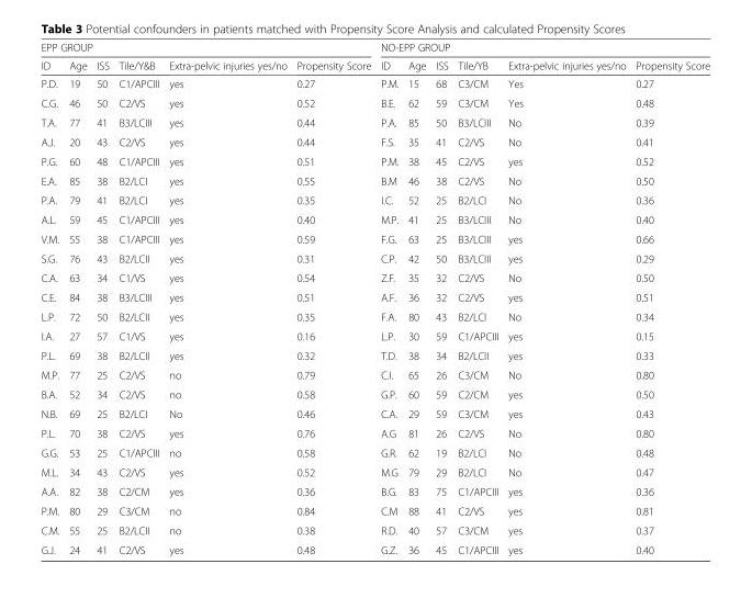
<table><thead><tr><td colspan="6">EPP GROUP</td><td colspan="6">NO-EPP GROUP</td></tr><tr><td>ID</td><td>Age</td><td>ISS</td><td>Tile/Y&amp;B</td><td>Extra-pelvic injuries yes/no</td><td>Propensity Score</td><td>ID</td><td>Age</td><td>ISS</td><td>Tile/YB</td><td>Extra-pelvic injuries yes/no</td><td>Propensity Score</td></tr></thead><tbody><tr><td>P.D.</td><td>19</td><td>50</td><td>C1/APCIII</td><td>yes</td><td>0.27</td><td>P.M.</td><td>15</td><td>68</td><td>C3/CM</td><td>Yes</td><td>0.27</td></tr><tr><td>C.G.</td><td>46</td><td>50</td><td>C2/VS</td><td>yes</td><td>0.52</td><td>B.E.</td><td>62</td><td>59</td><td>C3/CM</td><td>Yes</td><td>0.48</td></tr><tr><td>T.A.</td><td>77</td><td>41</td><td>B3/LCIII</td><td>yes</td><td>0.44</td><td>P.A.</td><td>85</td><td>50</td><td>B3/LCIII</td><td>No</td><td>0.39</td></tr><tr><td>A.J.</td><td>20</td><td>43</td><td>C2/VS</td><td>yes</td><td>0.44</td><td>F.S.</td><td>35</td><td>41</td><td>C2/VS</td><td>No</td><td>0.41</td></tr><tr><td>P.G.</td><td>60</td><td>48</td><td>C1/APCIII</td><td>yes</td><td>0.51</td><td>P.M.</td><td>38</td><td>45</td><td>C2/VS</td><td>yes</td><td>0.52</td></tr><tr><td>E.A.</td><td>85</td><td>38</td><td>B2/LCI</td><td>yes</td><td>0.55</td><td>B.M</td><td>46</td><td>38</td><td>C2/VS</td><td>No</td><td>0.50</td></tr><tr><td>P.A.</td><td>79</td><td>41</td><td>B2/LCI</td><td>yes</td><td>0.35</td><td>I.C.</td><td>52</td><td>25</td><td>B2/LCI</td><td>No</td><td>0.36</td></tr><tr><td>A.L.</td><td>59</td><td>45</td><td>C1/APCIII</td><td>yes</td><td>0.40</td><td>M.P.</td><td>41</td><td>25</td><td>B3/LCIII</td><td>No</td><td>0.40</td></tr><tr><td>V.M.</td><td>55</td><td>38</td><td>C1/APCIII</td><td>yes</td><td>0.59</td><td>F.G.</td><td>63</td><td>25</td><td>B3/LCIII</td><td>yes</td><td>0.66</td></tr><tr><td>S.G.</td><td>76</td><td>43</td><td>B2/LCII</td><td>yes</td><td>0.31</td><td>C.P.</td><td>42</td><td>50</td><td>B3/LCIII</td><td>yes</td><td>0.29</td></tr><tr><td>C.A.</td><td>63</td><td>34</td><td>C1/VS</td><td>yes</td><td>0.54</td><td>Z.F.</td><td>35</td><td>32</td><td>C2/VS</td><td>No</td><td>0.50</td></tr><tr><td>C.E.</td><td>84</td><td>38</td><td>B3/LCIII</td><td>yes</td><td>0.51</td><td>A.F.</td><td>36</td><td>32</td><td>C2/VS</td><td>yes</td><td>0.51</td></tr><tr><td>L.P.</td><td>72</td><td>50</td><td>B2/LCII</td><td>yes</td><td>0.35</td><td>F.A.</td><td>80</td><td>43</td><td>B2/LCI</td><td>No</td><td>0.34</td></tr><tr><td>I.A.</td><td>27</td><td>57</td><td>C1/VS</td><td>yes</td><td>0.16</td><td>L.P.</td><td>30</td><td>59</td><td>C1/APCIII</td><td>yes</td><td>0.15</td></tr><tr><td>P.L.</td><td>69</td><td>38</td><td>B2/LCII</td><td>yes</td><td>0.32</td><td>T.D.</td><td>38</td><td>34</td><td>B2/LCII</td><td>yes</td><td>0.33</td></tr><tr><td>M.P.</td><td>77</td><td>25</td><td>C2/VS</td><td>no</td><td>0.79</td><td>C.I.</td><td>65</td><td>26</td><td>C3/CM</td><td>No</td><td>0.80</td></tr><tr><td>B.A.</td><td>52</td><td>34</td><td>C2/VS</td><td>no</td><td>0.58</td><td>G.P.</td><td>60</td><td>59</td><td>C2/CM</td><td>yes</td><td>0.50</td></tr><tr><td>N.B.</td><td>69</td><td>25</td><td>B2/LCI</td><td>No</td><td>0.46</td><td>C.A.</td><td>29</td><td>59</td><td>C3/CM</td><td>yes</td><td>0.43</td></tr><tr><td>P.L.</td><td>70</td><td>38</td><td>C2/VS</td><td>yes</td><td>0.76</td><td>A.G</td><td>81</td><td>26</td><td>C2/VS</td><td>No</td><td>0.80</td></tr><tr><td>G.G.</td><td>53</td><td>25</td><td>C1/APCIII</td><td>no</td><td>0.58</td><td>G.R.</td><td>62</td><td>19</td><td>B2/LCI</td><td>No</td><td>0.48</td></tr><tr><td>M.L.</td><td>34</td><td>43</td><td>C2/VS</td><td>yes</td><td>0.52</td><td>M.G</td><td>79</td><td>29</td><td>B2/LCI</td><td>No</td><td>0.47</td></tr><tr><td>A.A.</td><td>82</td><td>38</td><td>C2/CM</td><td>yes</td><td>0.36</td><td>B.G.</td><td>83</td><td>75</td><td>C1/APCIII</td><td>yes</td><td>0.36</td></tr><tr><td>P.M.</td><td>80</td><td>29</td><td>C3/CM</td><td>no</td><td>0.84</td><td>C.M</td><td>88</td><td>41</td><td>C2/VS</td><td>yes</td><td>0.81</td></tr><tr><td>C.M.</td><td>55</td><td>25</td><td>B2/LCII</td><td>no</td><td>0.38</td><td>R.D.</td><td>40</td><td>57</td><td>C3/CM</td><td>yes</td><td>0.37</td></tr><tr><td>G.J.</td><td>24</td><td>41</td><td>C2/VS</td><td>yes</td><td>0.48</td><td>G.Z.</td><td>36</td><td>45</td><td>C1/APCIII</td><td>yes</td><td>0.40</td></tr></tbody></table>